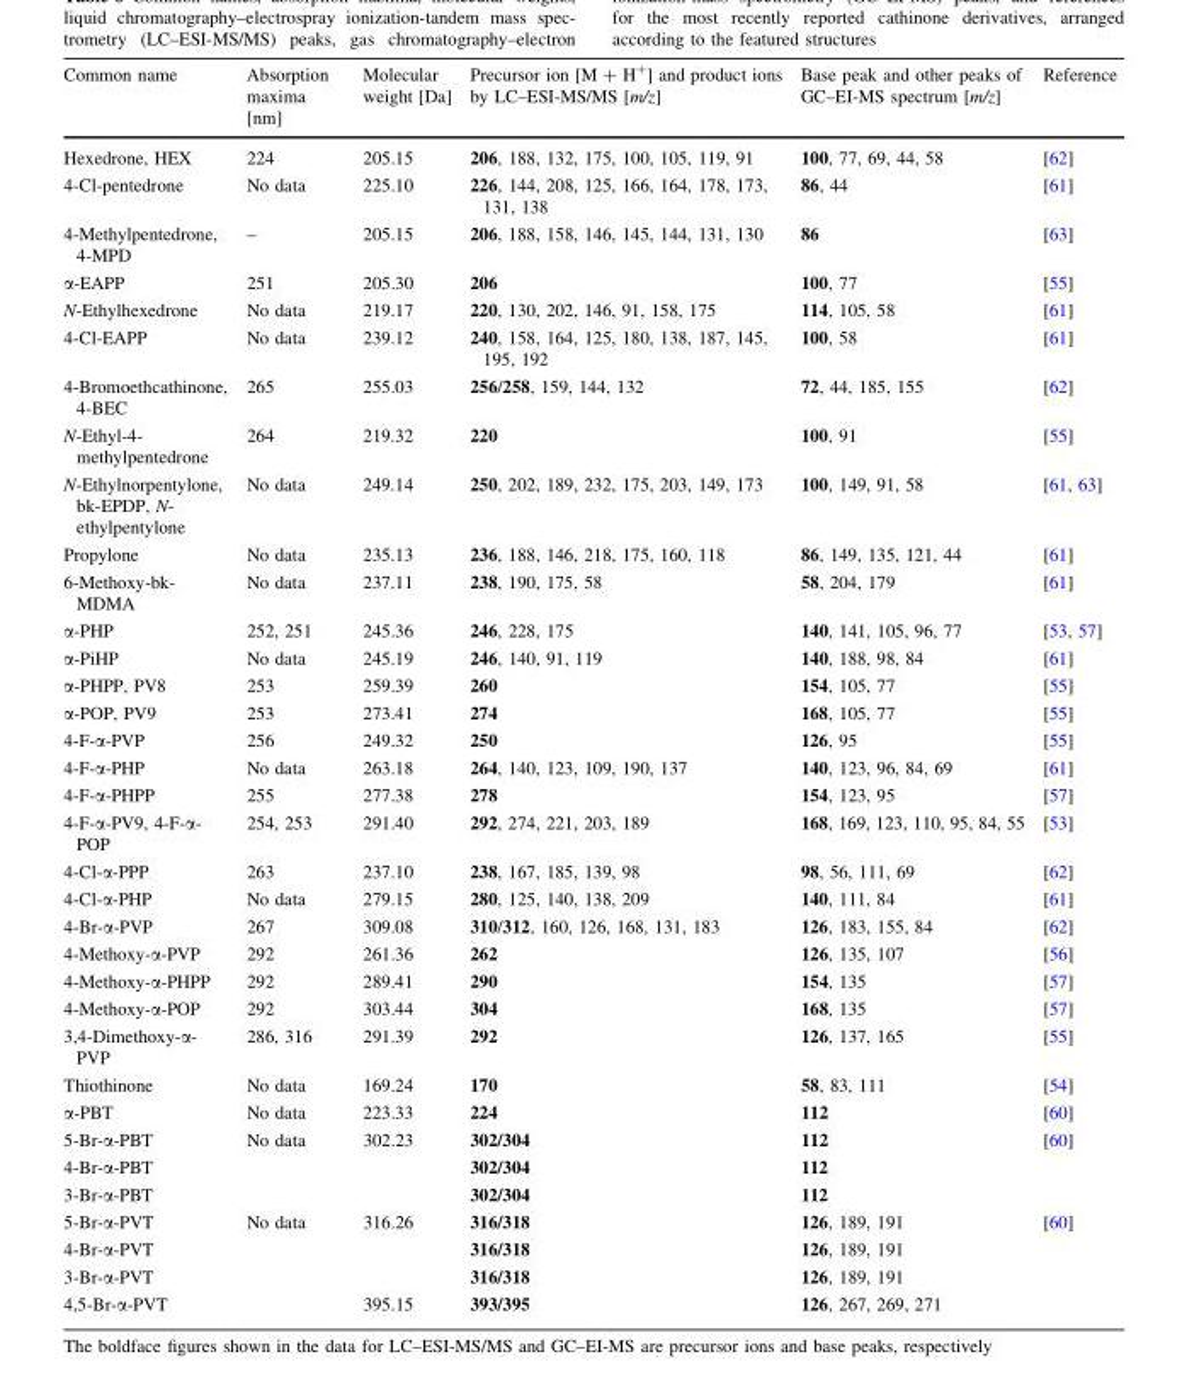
<table><thead><tr><td>Common name</td><td>Absorption maxima [nm]</td><td>Molecular weight [Da]</td><td>Precursor ion [M + H<sup>+</sup>] and product ions by LC–ESI-MS/MS [m/z]</td><td>Base peak and other peaks of GC–EI-MS spectrum [m/z]</td><td>Reference</td></tr></thead><tbody><tr><td>Hexedrone, HEX</td><td>224</td><td>205.15</td><td>206, 188, 132, 175, 100, 105, 119, 91</td><td>100, 77, 69, 44, 58</td><td>[62]</td></tr><tr><td>4-Cl-pentedrone</td><td>No data</td><td>225.10</td><td>226, 144, 208, 125, 166, 164, 178, 173, 131, 138</td><td>86, 44</td><td>[61]</td></tr><tr><td>4-Methylpentedrone, 4-MPD</td><td>–</td><td>205.15</td><td>206, 188, 158, 146, 145, 144, 131, 130</td><td>86</td><td>[63]</td></tr><tr><td>α-EAPP</td><td>251</td><td>205.30</td><td>206</td><td>100, 77</td><td>[55]</td></tr><tr><td>N-Ethylhexedrone</td><td>No data</td><td>219.17</td><td>220, 130, 202, 146, 91, 158, 175</td><td>114, 105, 58</td><td>[61]</td></tr><tr><td>4-Cl-EAPP</td><td>No data</td><td>239.12</td><td>240, 158, 164, 125, 180, 138, 187, 145, 195, 192</td><td>100, 58</td><td>[61]</td></tr><tr><td>4-Bromoethcathinone, 4-BEC</td><td>265</td><td>255.03</td><td>256/258, 159, 144, 132</td><td>72, 44, 185, 155</td><td>[62]</td></tr><tr><td>N-Ethyl-4- methylpentedrone</td><td>264</td><td>219.32</td><td>220</td><td>100, 91</td><td>[55]</td></tr><tr><td>N-Ethylnorpentylone, bk-EPDP, N- ethylpentylone</td><td>No data</td><td>249.14</td><td>250, 202, 189, 232, 175, 203, 149, 173</td><td>100, 149, 91, 58</td><td>[61, 63]</td></tr><tr><td>Propylone</td><td>No data</td><td>235.13</td><td>236, 188, 146, 218, 175, 160, 118</td><td>86, 149, 135, 121, 44</td><td>[61]</td></tr><tr><td>6-Methoxy-bk- MDMA</td><td>No data</td><td>237.11</td><td>238, 190, 175, 58</td><td>58, 204, 179</td><td>[61]</td></tr><tr><td>α-PHP</td><td>252, 251</td><td>245.36</td><td>246, 228, 175</td><td>140, 141, 105, 96, 77</td><td>[53, 57]</td></tr><tr><td>α-PiHP</td><td>No data</td><td>245.19</td><td>246, 140, 91, 119</td><td>140, 188, 98, 84</td><td>[61]</td></tr><tr><td>α-PHPP, PV8</td><td>253</td><td>259.39</td><td>260</td><td>154, 105, 77</td><td>[55]</td></tr><tr><td>α-POP, PV9</td><td>253</td><td>273.41</td><td>274</td><td>168, 105, 77</td><td>[55]</td></tr><tr><td>4-F-α-PVP</td><td>256</td><td>249.32</td><td>250</td><td>126, 95</td><td>[55]</td></tr><tr><td>4-F-α-PHP</td><td>No data</td><td>263.18</td><td>264, 140, 123, 109, 190, 137</td><td>140, 123, 96, 84, 69</td><td>[61]</td></tr><tr><td>4-F-α-PHPP</td><td>255</td><td>277.38</td><td>278</td><td>154, 123, 95</td><td>[57]</td></tr><tr><td>4-F-α-PV9, 4-F-α- POP</td><td>254, 253</td><td>291.40</td><td>292, 274, 221, 203, 189</td><td>168, 169, 123, 110, 95, 84, 55</td><td>[53]</td></tr><tr><td>4-Cl-α-PPP</td><td>263</td><td>237.10</td><td>238, 167, 185, 139, 98</td><td>98, 56, 111, 69</td><td>[62]</td></tr><tr><td>4-Cl-α-PHP</td><td>No data</td><td>279.15</td><td>280, 125, 140, 138, 209</td><td>140, 111, 84</td><td>[61]</td></tr><tr><td>4-Br-α-PVP</td><td>267</td><td>309.08</td><td>310/312, 160, 126, 168, 131, 183</td><td>126, 183, 155, 84</td><td>[62]</td></tr><tr><td>4-Methoxy-α-PVP</td><td>292</td><td>261.36</td><td>262</td><td>126, 135, 107</td><td>[56]</td></tr><tr><td>4-Methoxy-α-PHPP</td><td>292</td><td>289.41</td><td>290</td><td>154, 135</td><td>[57]</td></tr><tr><td>4-Methoxy-α-POP</td><td>292</td><td>303.44</td><td>304</td><td>168, 135</td><td>[57]</td></tr><tr><td>3,4-Dimethoxy-α- PVP</td><td>286, 316</td><td>291.39</td><td>292</td><td>126, 137, 165</td><td>[55]</td></tr><tr><td>Thiothinone</td><td>No data</td><td>169.24</td><td>170</td><td>58, 83, 111</td><td>[54]</td></tr><tr><td>α-PBT</td><td>No data</td><td>223.33</td><td>224</td><td>112</td><td>[60]</td></tr><tr><td>5-Br-α-PBT</td><td rowspan="3">No data</td><td rowspan="3">302.23</td><td>302/304</td><td>112</td><td rowspan="3">[60]</td></tr><tr><td>4-Br-α-PBT</td><td>302/304</td><td>112</td></tr><tr><td>3-Br-α-PBT</td><td>302/304</td><td>112</td></tr><tr><td>5-Br-α-PVT</td><td rowspan="4">No data</td><td>316.26</td><td>316/318</td><td>126, 189, 191</td><td rowspan="4">[60]</td></tr><tr><td>4-Br-α-PVT</td><td rowspan="2"></td><td>316/318</td><td>126, 189, 191</td></tr><tr><td>3-Br-α-PVT</td><td>316/318</td><td>126, 189, 191</td></tr><tr><td>4,5-Br-α-PVT</td><td>395.15</td><td>393/395</td><td>126, 267, 269, 271</td></tr></tbody></table>